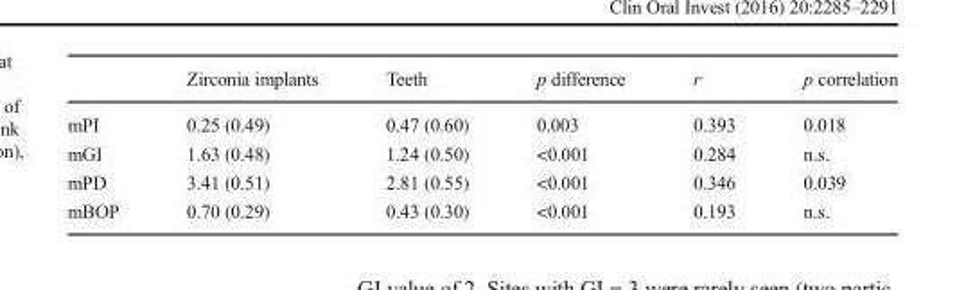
<table><thead><tr><td></td><td>Zirconia implants</td><td>Teeth</td><td>p difference</td><td>r</td><td>p correlation</td></tr></thead><tbody><tr><td>mPI</td><td>0.25 (0.49)</td><td>0.47 (0.60)</td><td>0.003</td><td>0.393</td><td>0.018</td></tr><tr><td>mGI</td><td>1.63 (0.48)</td><td>1.24 (0.50)</td><td>&lt;0.001</td><td>0.284</td><td>n.s.</td></tr><tr><td>mPD</td><td>3.41 (0.51)</td><td>2.81 (0.55)</td><td>&lt;0.001</td><td>0.346</td><td>0.039</td></tr><tr><td>mBOP</td><td>0.70 (0.29)</td><td>0.43 (0.30)</td><td>&lt;0.001</td><td>0.193</td><td>n.s.</td></tr></tbody></table>